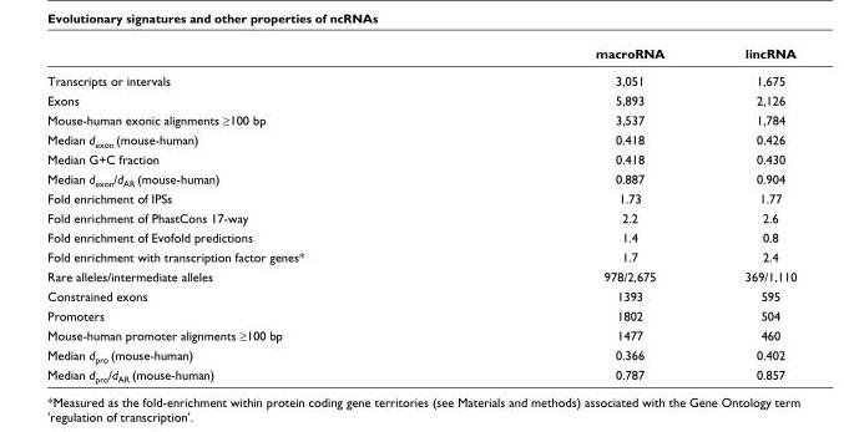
<table><thead><tr><td></td><td>macroRNA</td><td>lincRNA</td></tr></thead><tbody><tr><td>Transcripts or intervals</td><td>3,051</td><td>1,675</td></tr><tr><td>Exons</td><td>5,893</td><td>2,126</td></tr><tr><td>Mouse-human exonic alignments ≥100 bp</td><td>3,537</td><td>1,784</td></tr><tr><td>Median d<sub>exon</sub> (mouse-human)</td><td>0.418</td><td>0.426</td></tr><tr><td>Median G+C fraction</td><td>0.418</td><td>0.430</td></tr><tr><td>Median d<sub>exon</sub>/d<sub>AR</sub> (mouse-human)</td><td>0.887</td><td>0.904</td></tr><tr><td>Fold enrichment of IPSs</td><td>1.73</td><td>1.77</td></tr><tr><td>Fold enrichment of PhastCons 17-way</td><td>2.2</td><td>2.6</td></tr><tr><td>Fold enrichment of Evofold predictions</td><td>1.4</td><td>0.8</td></tr><tr><td>Fold enrichment with transcription factor genes*</td><td>1.7</td><td>2.4</td></tr><tr><td>Rare alleles/intermediate alleles</td><td>978/2,675</td><td>369/1,110</td></tr><tr><td>Constrained exons</td><td>1393</td><td>595</td></tr><tr><td>Promoters</td><td>1802</td><td>504</td></tr><tr><td>Mouse-human promoter alignments ≥100 bp</td><td>1477</td><td>460</td></tr><tr><td>Median d<sub>pro</sub> (mouse-human)</td><td>0.366</td><td>0.402</td></tr><tr><td>Median d<sub>pro</sub>/d<sub>AR</sub> (mouse-human)</td><td>0.787</td><td>0.857</td></tr></tbody></table>